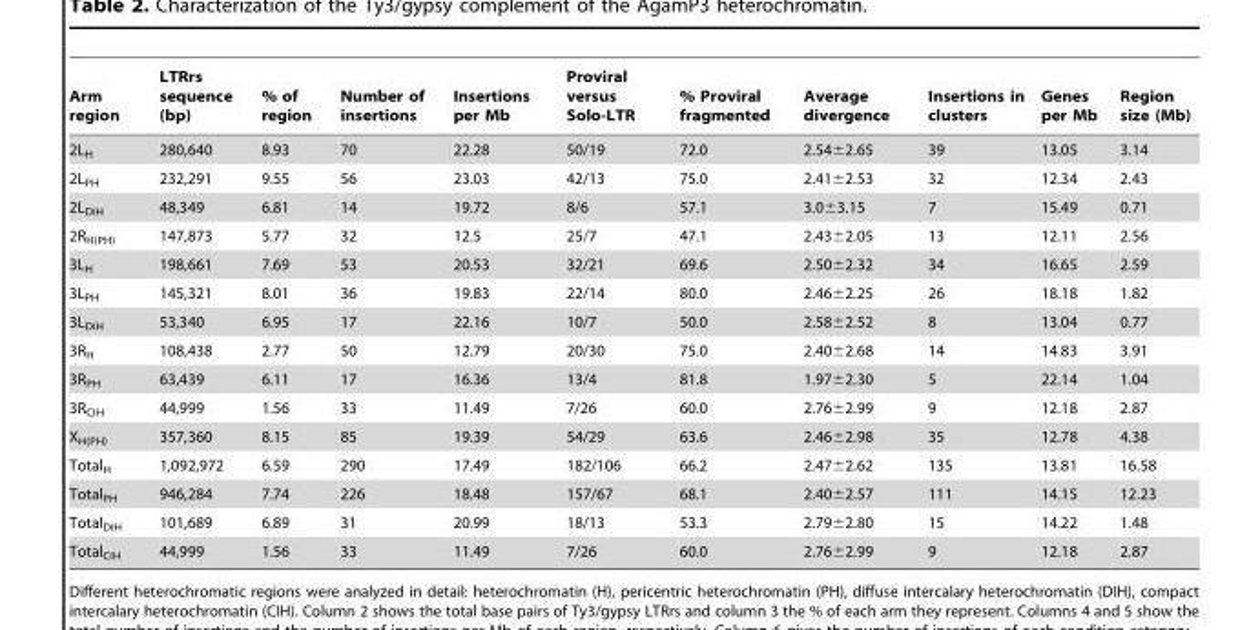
<table><thead><tr><td>Arm region</td><td>LTRrs sequence (bp)</td><td>% of region</td><td>Number of insertions</td><td>Insertions per Mb</td><td>Proviral versus Solo-LTR</td><td>% Proviral fragmented</td><td>Average divergence</td><td>Insertions in clusters</td><td>Genes per Mb</td><td>Region size (Mb)</td></tr></thead><tbody><tr><td>2L<sub>H</sub></td><td>280,640</td><td>8.93</td><td>70</td><td>22.28</td><td>50/19</td><td>72.0</td><td>2.54±2.65</td><td>39</td><td>13.05</td><td>3.14</td></tr><tr><td>2L<sub>PH</sub></td><td>232,291</td><td>9.55</td><td>56</td><td>23.03</td><td>42/13</td><td>75.0</td><td>2.41±2.53</td><td>32</td><td>12.34</td><td>2.43</td></tr><tr><td>2L<sub>DIH</sub></td><td>48,349</td><td>6.81</td><td>14</td><td>19.72</td><td>8/6</td><td>57.1</td><td>3.0±3.15</td><td>7</td><td>15.49</td><td>0.71</td></tr><tr><td>2R<sub>H(PH)</sub></td><td>147,873</td><td>5.77</td><td>32</td><td>12.5</td><td>25/7</td><td>47.1</td><td>2.43±2.05</td><td>13</td><td>12.11</td><td>2.56</td></tr><tr><td>3L<sub>H</sub></td><td>198,661</td><td>7.69</td><td>53</td><td>20.53</td><td>32/21</td><td>69.6</td><td>2.50±2.32</td><td>34</td><td>16.65</td><td>2.59</td></tr><tr><td>3L<sub>PH</sub></td><td>145,321</td><td>8.01</td><td>36</td><td>19.83</td><td>22/14</td><td>80.0</td><td>2.46±2.25</td><td>26</td><td>18.18</td><td>1.82</td></tr><tr><td>3L<sub>DIH</sub></td><td>53,340</td><td>6.95</td><td>17</td><td>22.16</td><td>10/7</td><td>50.0</td><td>2.58±2.52</td><td>8</td><td>13.04</td><td>0.77</td></tr><tr><td>3R<sub>H</sub></td><td>108,438</td><td>2.77</td><td>50</td><td>12.79</td><td>20/30</td><td>75.0</td><td>2.40±2.68</td><td>14</td><td>14.83</td><td>3.91</td></tr><tr><td>3R<sub>PH</sub></td><td>63,439</td><td>6.11</td><td>17</td><td>16.36</td><td>13/4</td><td>81.8</td><td>1.97±2.30</td><td>5</td><td>22.14</td><td>1.04</td></tr><tr><td>3R<sub>CIH</sub></td><td>44,999</td><td>1.56</td><td>33</td><td>11.49</td><td>7/26</td><td>60.0</td><td>2.76±2.99</td><td>9</td><td>12.18</td><td>2.87</td></tr><tr><td>X<sub>H(PH)</sub></td><td>357,360</td><td>8.15</td><td>85</td><td>19.39</td><td>54/29</td><td>63.6</td><td>2.46±2.98</td><td>35</td><td>12.78</td><td>4.38</td></tr><tr><td>Total<sub>H</sub></td><td>1,092,972</td><td>6.59</td><td>290</td><td>17.49</td><td>182/106</td><td>66.2</td><td>2.47±2.62</td><td>135</td><td>13.81</td><td>16.58</td></tr><tr><td>Total<sub>PH</sub></td><td>946,284</td><td>7.74</td><td>226</td><td>18.48</td><td>157/67</td><td>68.1</td><td>2.40±2.57</td><td>111</td><td>14.15</td><td>12.23</td></tr><tr><td>Total<sub>DIH</sub></td><td>101,689</td><td>6.89</td><td>31</td><td>20.99</td><td>18/13</td><td>53.3</td><td>2.79±2.80</td><td>15</td><td>14.22</td><td>1.48</td></tr><tr><td>Total<sub>CIH</sub></td><td>44,999</td><td>1.56</td><td>33</td><td>11.49</td><td>7/26</td><td>60.0</td><td>2.76±2.99</td><td>9</td><td>12.18</td><td>2.87</td></tr></tbody></table>